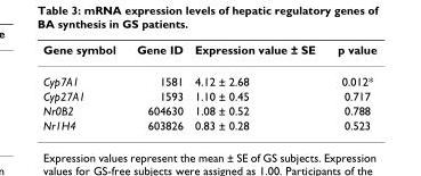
<table><thead><tr><td>Gene symbol</td><td>Gene ID</td><td>Expression value ± SE</td><td>p value</td></tr></thead><tbody><tr><td>Cyp7A1</td><td>1581</td><td>4.12 ± 2.68</td><td>0.012*</td></tr><tr><td>Cyp27A1</td><td>1593</td><td>1.10 ± 0.45</td><td>0.717</td></tr><tr><td>Nr0B2</td><td>604630</td><td>1.08 ± 0.52</td><td>0.788</td></tr><tr><td>Nr1H4</td><td>603826</td><td>0.83 ± 0.28</td><td>0.523</td></tr></tbody></table>